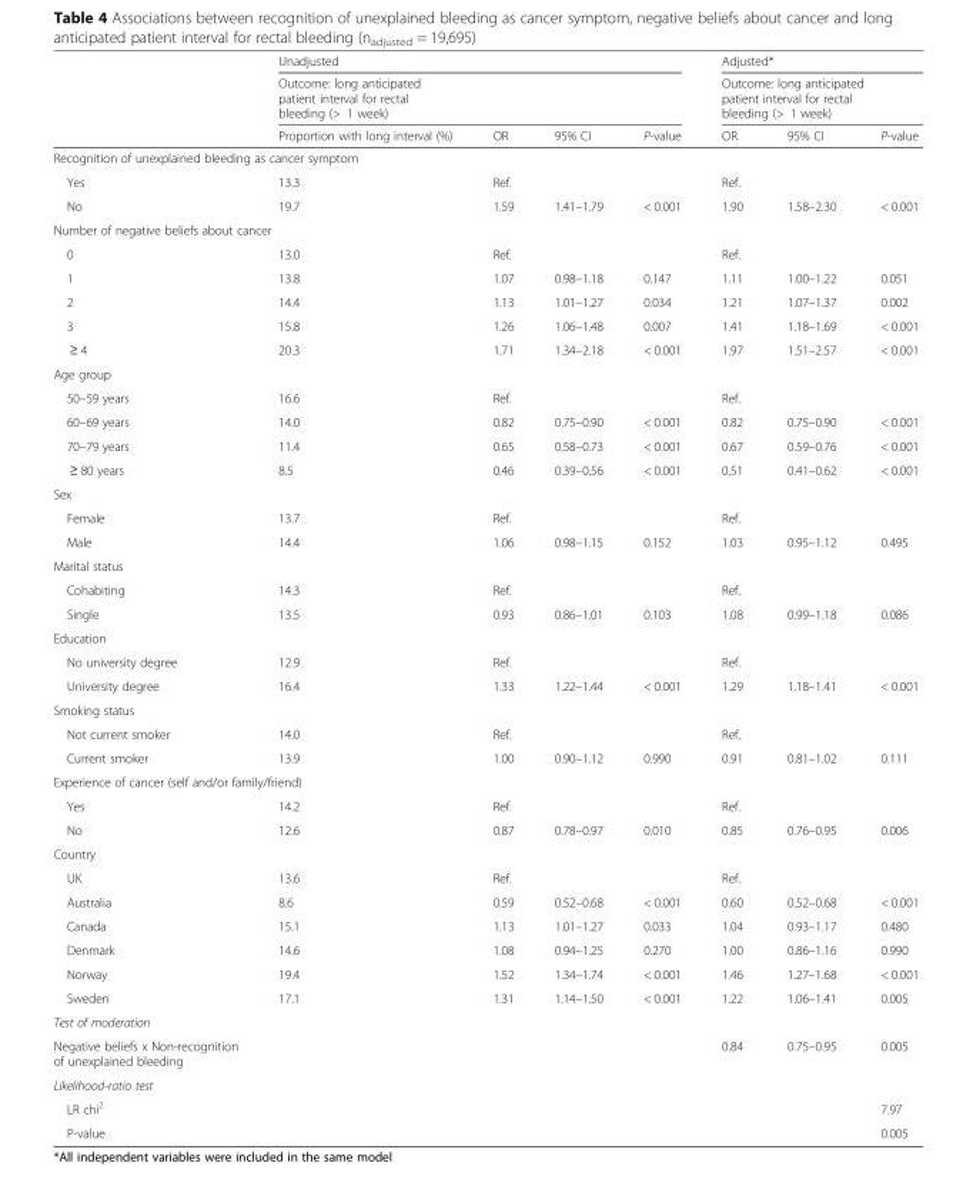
<table><thead><tr><td rowspan="3"></td><td rowspan="2" colspan="4">Unadjusted Outcome: long anticipated patient interval for rectal bleeding (&gt; 1 week)</td><td rowspan="2" colspan="3">Adjusted* Outcome: long anticipated patient interval for rectal bleeding (&gt; 1 week)</td></tr><tr></tr><tr><td>Proportion with long interval (%)</td><td>OR</td><td>95% CI</td><td>P-value</td><td>OR</td><td>95% CI</td><td>P-value</td></tr></thead><tbody><tr><td colspan="8">Recognition of unexplained bleeding as cancer symptom</td></tr><tr><td>Yes</td><td>13.3</td><td>Ref.</td><td></td><td></td><td>Ref.</td><td></td><td></td></tr><tr><td>No</td><td>19.7</td><td>1.59</td><td>1.41–1.79</td><td>&lt; 0.001</td><td>1.90</td><td>1.58–2.30</td><td>&lt; 0.001</td></tr><tr><td colspan="8">Number of negative beliefs about cancer</td></tr><tr><td>0</td><td>13.0</td><td>Ref.</td><td></td><td></td><td>Ref.</td><td></td><td></td></tr><tr><td>1</td><td>13.8</td><td>1.07</td><td>0.98–1.18</td><td>0.147</td><td>1.11</td><td>1.00–1.22</td><td>0.051</td></tr><tr><td>2</td><td>14.4</td><td>1.13</td><td>1.01–1.27</td><td>0.034</td><td>1.21</td><td>1.07–1.37</td><td>0.002</td></tr><tr><td>3</td><td>15.8</td><td>1.26</td><td>1.06–1.48</td><td>0.007</td><td>1.41</td><td>1.18–1.69</td><td>&lt; 0.001</td></tr><tr><td>≥ 4</td><td>20.3</td><td>1.71</td><td>1.34–2.18</td><td>&lt; 0.001</td><td>1.97</td><td>1.51–2.57</td><td>&lt; 0.001</td></tr><tr><td colspan="8">Age group</td></tr><tr><td>50–59 years</td><td>16.6</td><td>Ref.</td><td></td><td></td><td>Ref.</td><td></td><td></td></tr><tr><td>60–69 years</td><td>14.0</td><td>0.82</td><td>0.75–0.90</td><td>&lt; 0.001</td><td>0.82</td><td>0.75–0.90</td><td>&lt; 0.001</td></tr><tr><td>70–79 years</td><td>11.4</td><td>0.65</td><td>0.58–0.73</td><td>&lt; 0.001</td><td>0.67</td><td>0.59–0.76</td><td>&lt; 0.001</td></tr><tr><td>≥ 80 years</td><td>8.5</td><td>0.46</td><td>0.39–0.56</td><td>&lt; 0.001</td><td>0.51</td><td>0.41–0.62</td><td>&lt; 0.001</td></tr><tr><td colspan="8">Sex</td></tr><tr><td>Female</td><td>13.7</td><td>Ref.</td><td></td><td></td><td>Ref.</td><td></td><td></td></tr><tr><td>Male</td><td>14.4</td><td>1.06</td><td>0.98–1.15</td><td>0.152</td><td>1.03</td><td>0.95–1.12</td><td>0.495</td></tr><tr><td colspan="8">Marital status</td></tr><tr><td>Cohabiting</td><td>14.3</td><td>Ref.</td><td></td><td></td><td>Ref.</td><td></td><td></td></tr><tr><td>Single</td><td>13.5</td><td>0.93</td><td>0.86–1.01</td><td>0.103</td><td>1.08</td><td>0.99–1.18</td><td>0.086</td></tr><tr><td colspan="8">Education</td></tr><tr><td>No university degree</td><td>12.9</td><td>Ref.</td><td></td><td></td><td>Ref.</td><td></td><td></td></tr><tr><td>University degree</td><td>16.4</td><td>1.33</td><td>1.22–1.44</td><td>&lt; 0.001</td><td>1.29</td><td>1.18–1.41</td><td>&lt; 0.001</td></tr><tr><td colspan="8">Smoking status</td></tr><tr><td>Not current smoker</td><td>14.0</td><td>Ref.</td><td></td><td></td><td>Ref.</td><td></td><td></td></tr><tr><td>Current smoker</td><td>13.9</td><td>1.00</td><td>0.90–1.12</td><td>0.990</td><td>0.91</td><td>0.81–1.02</td><td>0.111</td></tr><tr><td colspan="8">Experience of cancer (self and/or family/friend)</td></tr><tr><td>Yes</td><td>14.2</td><td>Ref.</td><td></td><td></td><td>Ref.</td><td></td><td></td></tr><tr><td>No</td><td>12.6</td><td>0.87</td><td>0.78–0.97</td><td>0.010</td><td>0.85</td><td>0.76–0.95</td><td>0.006</td></tr><tr><td colspan="8">Country</td></tr><tr><td>UK</td><td>13.6</td><td>Ref.</td><td></td><td></td><td>Ref.</td><td></td><td></td></tr><tr><td>Australia</td><td>8.6</td><td>0.59</td><td>0.52–0.68</td><td>&lt; 0.001</td><td>0.60</td><td>0.52–0.68</td><td>&lt; 0.001</td></tr><tr><td>Canada</td><td>15.1</td><td>1.13</td><td>1.01–1.27</td><td>0.033</td><td>1.04</td><td>0.93–1.17</td><td>0.480</td></tr><tr><td>Denmark</td><td>14.6</td><td>1.08</td><td>0.94–1.25</td><td>0.270</td><td>1.00</td><td>0.86–1.16</td><td>0.990</td></tr><tr><td>Norway</td><td>19.4</td><td>1.52</td><td>1.34–1.74</td><td>&lt; 0.001</td><td>1.46</td><td>1.27–1.68</td><td>&lt; 0.001</td></tr><tr><td>Sweden</td><td>17.1</td><td>1.31</td><td>1.14–1.50</td><td>&lt; 0.001</td><td>1.22</td><td>1.06–1.41</td><td>0.005</td></tr><tr><td colspan="8">Test of moderation</td></tr><tr><td>Negative beliefs x Non-recognition of unexplained bleeding</td><td></td><td></td><td></td><td></td><td>0.84</td><td>0.75–0.95</td><td>0.005</td></tr><tr><td colspan="8">Likelihood-ratio test</td></tr><tr><td>LR chi<sup>2</sup></td><td></td><td></td><td></td><td></td><td></td><td></td><td>7.97</td></tr><tr><td>P-value</td><td></td><td></td><td></td><td></td><td></td><td></td><td>0.005</td></tr></tbody></table>